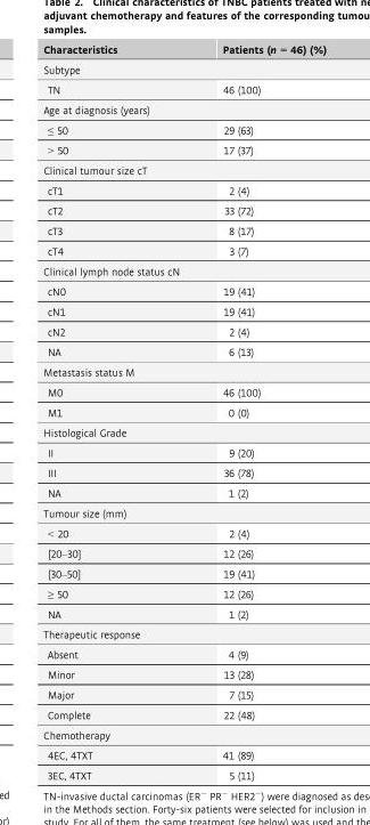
<table><thead><tr><td>Characteristics</td><td>Patients (n = 46) (%)</td></tr></thead><tbody><tr><td colspan="2">Subtype</td></tr><tr><td>TN</td><td>46 (100)</td></tr><tr><td colspan="2">Age at diagnosis (years)</td></tr><tr><td>≤ 50</td><td>29 (63)</td></tr><tr><td>&gt; 50</td><td>17 (37)</td></tr><tr><td colspan="2">Clinical tumour size cT</td></tr><tr><td>cT1</td><td>2 (4)</td></tr><tr><td>cT2</td><td>33 (72)</td></tr><tr><td>cT3</td><td>8 (17)</td></tr><tr><td>cT4</td><td>3 (7)</td></tr><tr><td colspan="2">Clinical lymph node status cN</td></tr><tr><td>cN0</td><td>19 (41)</td></tr><tr><td>cN1</td><td>19 (41)</td></tr><tr><td>cN2</td><td>2 (4)</td></tr><tr><td>NA</td><td>6 (13)</td></tr><tr><td colspan="2">Metastasis status M</td></tr><tr><td>M0</td><td>46 (100)</td></tr><tr><td>M1</td><td>0 (0)</td></tr><tr><td colspan="2">Histological Grade</td></tr><tr><td>II</td><td>9 (20)</td></tr><tr><td>III</td><td>36 (78)</td></tr><tr><td>NA</td><td>1 (2)</td></tr><tr><td colspan="2">Tumour size (mm)</td></tr><tr><td>&lt; 20</td><td>2 (4)</td></tr><tr><td>[20–30]</td><td>12 (26)</td></tr><tr><td>[30–50]</td><td>19 (41)</td></tr><tr><td>≥ 50</td><td>12 (26)</td></tr><tr><td>NA</td><td>1 (2)</td></tr><tr><td colspan="2">Therapeutic response</td></tr><tr><td>Absent</td><td>4 (9)</td></tr><tr><td>Minor</td><td>13 (28)</td></tr><tr><td>Major</td><td>7 (15)</td></tr><tr><td>Complete</td><td>22 (48)</td></tr><tr><td colspan="2">Chemotherapy</td></tr><tr><td>4EC, 4TXT</td><td>41 (89)</td></tr><tr><td>3EC, 4TXT</td><td>5 (11)</td></tr></tbody></table>